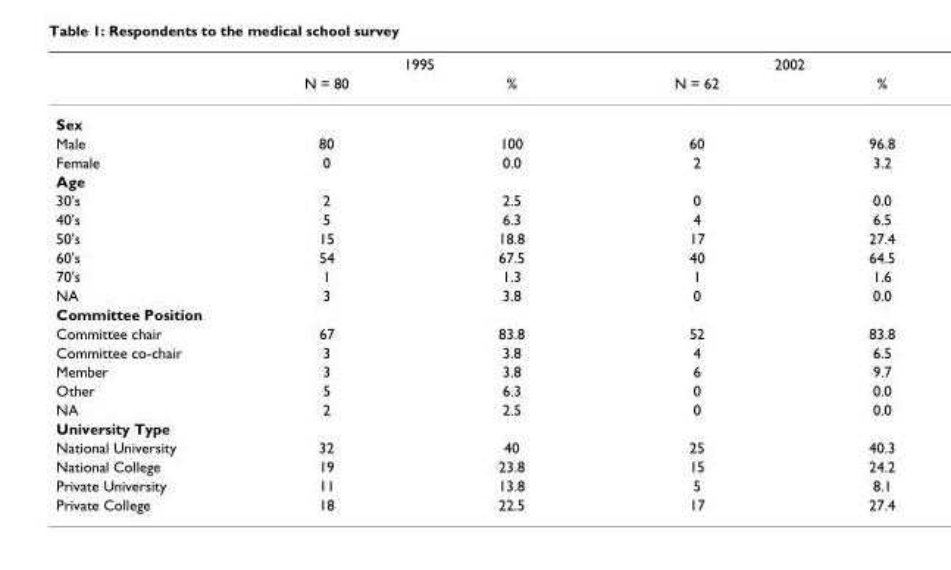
<table><thead><tr><td rowspan="2"></td><td colspan="2">1995</td><td colspan="2">2002</td></tr><tr><td>N = 80</td><td>%</td><td>N = 62</td><td>%</td></tr></thead><tbody><tr><td colspan="5">Sex</td></tr><tr><td>Male</td><td>80</td><td>100</td><td>60</td><td>96.8</td></tr><tr><td>Female</td><td>0</td><td>0.0</td><td>2</td><td>3.2</td></tr><tr><td colspan="5">Age</td></tr><tr><td>30&#x27;s</td><td>2</td><td>2.5</td><td>0</td><td>0.0</td></tr><tr><td>40&#x27;s</td><td>5</td><td>6.3</td><td>4</td><td>6.5</td></tr><tr><td>50&#x27;s</td><td>15</td><td>18.8</td><td>17</td><td>27.4</td></tr><tr><td>60&#x27;s</td><td>54</td><td>67.5</td><td>40</td><td>64.5</td></tr><tr><td>70&#x27;s</td><td>1</td><td>1.3</td><td>1</td><td>1.6</td></tr><tr><td>NA</td><td>3</td><td>3.8</td><td>0</td><td>0.0</td></tr><tr><td colspan="5">Committee Position</td></tr><tr><td>Committee chair</td><td>67</td><td>83.8</td><td>52</td><td>83.8</td></tr><tr><td>Committee co-chair</td><td>3</td><td>3.8</td><td>4</td><td>6.5</td></tr><tr><td>Member</td><td>3</td><td>3.8</td><td>6</td><td>9.7</td></tr><tr><td>Other</td><td>5</td><td>6.3</td><td>0</td><td>0.0</td></tr><tr><td>NA</td><td>2</td><td>2.5</td><td>0</td><td>0.0</td></tr><tr><td colspan="5">University Type</td></tr><tr><td>National University</td><td>32</td><td>40</td><td>25</td><td>40.3</td></tr><tr><td>National College</td><td>19</td><td>23.8</td><td>15</td><td>24.2</td></tr><tr><td>Private University</td><td>11</td><td>13.8</td><td>5</td><td>8.1</td></tr><tr><td>Private College</td><td>18</td><td>22.5</td><td>17</td><td>27.4</td></tr></tbody></table>